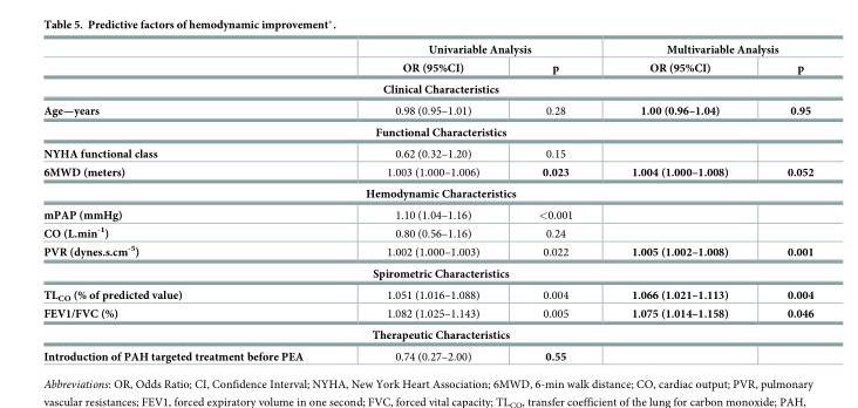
<table><thead><tr><td rowspan="2"></td><td colspan="2">Univariable Analysis</td><td colspan="2">Multivariable Analysis</td></tr><tr><td>OR (95%CI)</td><td>p</td><td>OR (95%CI)</td><td>p</td></tr></thead><tbody><tr><td colspan="5">Clinical Characteristics</td></tr><tr><td>Age—years</td><td>0.98 (0.95–1.01)</td><td>0.28</td><td>1.00 (0.96–1.04)</td><td>0.95</td></tr><tr><td colspan="5">Functional Characteristics</td></tr><tr><td>NYHA functional class</td><td>0.62 (0.32–1.20)</td><td>0.15</td><td></td><td></td></tr><tr><td>6MWD (meters)</td><td>1.003 (1.000–1.006)</td><td>0.023</td><td>1.004 (1.000–1.008)</td><td>0.052</td></tr><tr><td colspan="5">Hemodynamic Characteristics</td></tr><tr><td>mPAP (mmHg)</td><td>1.10 (1.04–1.16)</td><td>&lt;0.001</td><td></td><td></td></tr><tr><td>CO (L.min<sup>-1</sup>)</td><td>0.80 (0.56–1.16)</td><td>0.24</td><td></td><td></td></tr><tr><td>PVR (dynes.s.cm<sup>-5</sup>)</td><td>1.002 (1.000–1.003)</td><td>0.022</td><td>1.005 (1.002–1.008)</td><td>0.001</td></tr><tr><td colspan="5">Spirometric Characteristics</td></tr><tr><td>TL<sub>CO</sub> (% of predicted value)</td><td>1.051 (1.016–1.088)</td><td>0.004</td><td>1.066 (1.021–1.113)</td><td>0.004</td></tr><tr><td>FEV1/FVC (%)</td><td>1.082 (1.025–1.143)</td><td>0.005</td><td>1.075 (1.014–1.158)</td><td>0.046</td></tr><tr><td colspan="5">Therapeutic Characteristics</td></tr><tr><td>Introduction of PAH targeted treatment before PEA</td><td>0.74 (0.27–2.00)</td><td>0.55</td><td></td><td></td></tr></tbody></table>